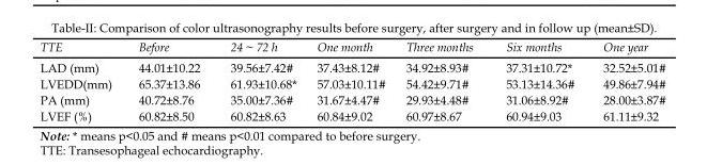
<table><thead><tr><td>TTE</td><td>Before</td><td>24 ~ 72 h</td><td>One month</td><td>Three months</td><td>Six months</td><td>One year</td></tr></thead><tbody><tr><td>LAD (mm)</td><td>44.01±10.22</td><td>39.56±7.42<sup>#</sup></td><td>37.43±8.12<sup>#</sup></td><td>34.92±8.93<sup>#</sup></td><td>37.31±10.72*</td><td>32.52±5.01<sup>#</sup></td></tr><tr><td>LVEDD(mm)</td><td>65.37±13.86</td><td>61.93±10.68*</td><td>57.03±10.11<sup>#</sup></td><td>54.42±9.71<sup>#</sup></td><td>53.13±14.36<sup>#</sup></td><td>49.86±7.94<sup>#</sup></td></tr><tr><td>PA (mm)</td><td>40.72±8.76</td><td>35.00±7.36<sup>#</sup></td><td>31.67±4.47<sup>#</sup></td><td>29.93±4.48<sup>#</sup></td><td>31.06±8.92<sup>#</sup></td><td>28.00±3.87<sup>#</sup></td></tr><tr><td>LVEF (%)</td><td>60.82±8.50</td><td>60.82±8.63</td><td>60.84±9.02</td><td>60.97±8.67</td><td>60.94±9.03</td><td>61.11±9.32</td></tr></tbody></table>